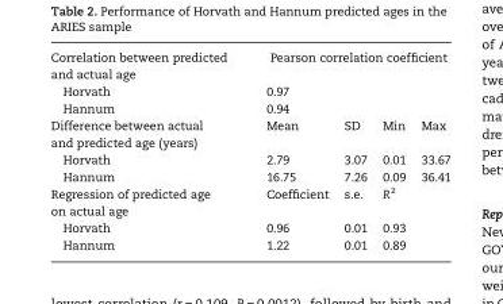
<table><tbody><tr><td>Correlation between predicted and actual age</td><td colspan="4">Pearson correlation coefficient</td></tr><tr><td>Horvath</td><td>0.97</td><td></td><td></td><td></td></tr><tr><td>Hannum</td><td>0.94</td><td></td><td></td><td></td></tr><tr><td>Difference between actual and predicted age (years)</td><td>Mean</td><td>SD</td><td>Min</td><td>Max</td></tr><tr><td>Horvath</td><td>2.79</td><td>3.07</td><td>0.01</td><td>33.67</td></tr><tr><td>Hannum</td><td>16.75</td><td>7.26</td><td>0.09</td><td>36.41</td></tr><tr><td>Regression of predicted age on actual age</td><td>Coefficient</td><td>s.e.</td><td>R<sup>2</sup></td><td></td></tr><tr><td>Horvath</td><td>0.96</td><td>0.01</td><td>0.93</td><td></td></tr><tr><td>Hannum</td><td>1.22</td><td>0.01</td><td>0.89</td><td></td></tr></tbody></table>